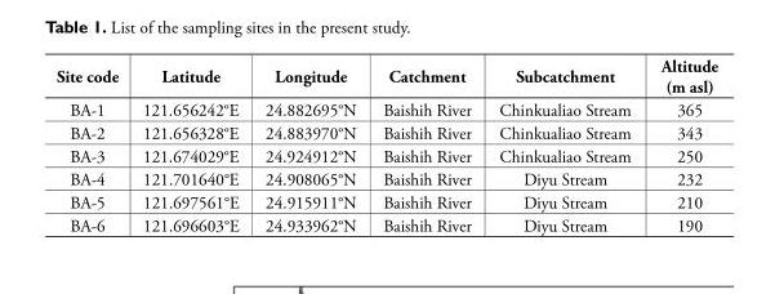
<table><thead><tr><td>Site code</td><td>Latitude</td><td>Longitude</td><td>Catchment</td><td>Subcatchment</td><td>Altitude (m asl)</td></tr></thead><tbody><tr><td>BA-1</td><td colspan="2">121.656242°E 24.882695°N</td><td>Baishih River</td><td>Chinkualiao Stream</td><td>365</td></tr><tr><td>BA-2</td><td colspan="2">121.656328°E 24.883970°N</td><td>Baishih River</td><td>Chinkualiao Stream</td><td>343</td></tr><tr><td>BA-3</td><td colspan="2">121.674029°E 24.924912°N</td><td>Baishih River</td><td>Chinkualiao Stream</td><td>250</td></tr><tr><td>BA-4</td><td colspan="2">121.701640°E 24.908065°N</td><td>Baishih River</td><td>Diyu Stream</td><td>232</td></tr><tr><td>BA-5</td><td colspan="2">121.697561°E 24.915911°N</td><td>Baishih River</td><td>Diyu Stream</td><td>210</td></tr><tr><td>BA-6</td><td colspan="2">121.696603°E 24.933962°N</td><td>Baishih River</td><td>Diyu Stream</td><td>190</td></tr></tbody></table>